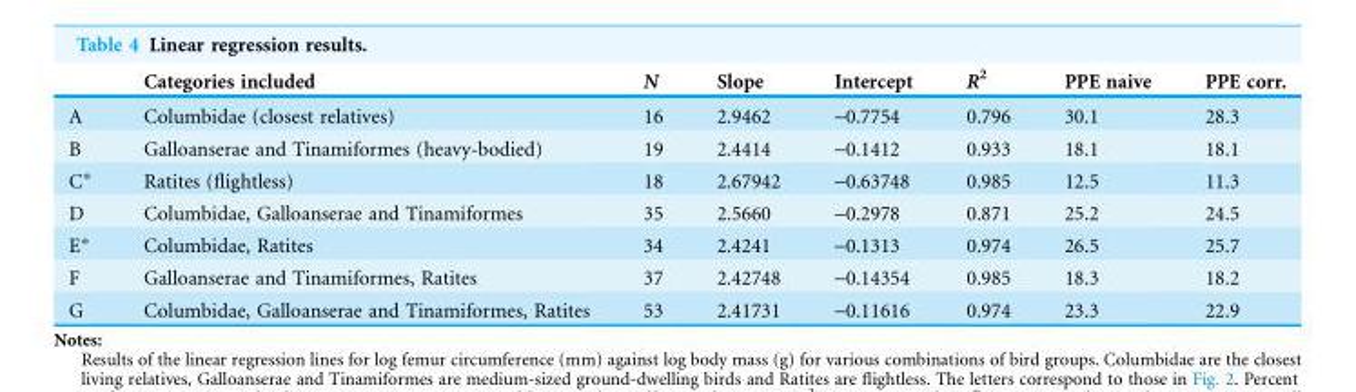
<table><thead><tr><td></td><td>Categories included</td><td>N</td><td>Slope</td><td>Intercept</td><td>R<sup>2</sup></td><td>PPE naive</td><td>PPE corr.</td></tr></thead><tbody><tr><td>A</td><td>Columbidae (closest relatives)</td><td>16</td><td>2.9462</td><td>-0.7754</td><td>0.796</td><td>30.1</td><td>28.3</td></tr><tr><td>B</td><td>Galloanserae and Tinamiformes (heavy-bodied)</td><td>19</td><td>2.4414</td><td>-0.1412</td><td>0.933</td><td>18.1</td><td>18.1</td></tr><tr><td>C*</td><td>Ratites (flightless)</td><td>18</td><td>2.67942</td><td>-0.63748</td><td>0.985</td><td>12.5</td><td>11.3</td></tr><tr><td>D</td><td>Columbidae, Galloanserae and Tinamiformes</td><td>35</td><td>2.5660</td><td>-0.2978</td><td>0.871</td><td>25.2</td><td>24.5</td></tr><tr><td>E*</td><td>Columbidae, Ratites</td><td>34</td><td>2.4241</td><td>-0.1313</td><td>0.974</td><td>26.5</td><td>25.7</td></tr><tr><td>F</td><td>Galloanserae and Tinamiformes, Ratites</td><td>37</td><td>2.42748</td><td>-0.14354</td><td>0.985</td><td>18.3</td><td>18.2</td></tr><tr><td>G</td><td>Columbidae, Galloanserae and Tinamiformes, Ratites</td><td>53</td><td>2.41731</td><td>-0.11616</td><td>0.974</td><td>23.3</td><td>22.9</td></tr></tbody></table>